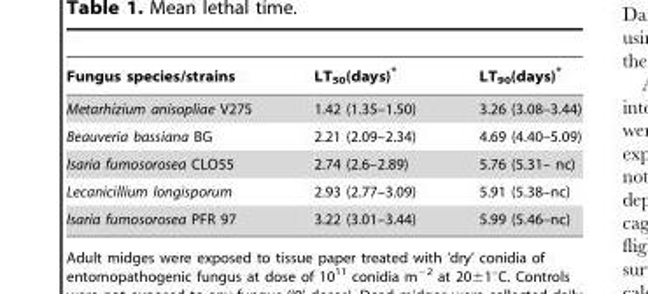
<table><thead><tr><td>Fungus species/strains</td><td>LT<sub>50</sub>(days)*</td><td>LT<sub>90</sub>(days)*</td></tr></thead><tbody><tr><td>Metarhizium anisopliae V275</td><td>1.42 (1.35–1.50)</td><td>3.26 (3.08–3.44)</td></tr><tr><td>Beauveria bassiana BG</td><td>2.21 (2.09–2.34)</td><td>4.69 (4.40–5.09)</td></tr><tr><td>Isaria fumosorosea CLO55</td><td>2.74 (2.6–2.89)</td><td>5.76 (5.31– nc)</td></tr><tr><td>Lecanicillium longisporum</td><td>2.93 (2.77–3.09)</td><td>5.91 (5.38–nc)</td></tr><tr><td>Isaria fumosorosea PFR 97</td><td>3.22 (3.01–3.44)</td><td>5.99 (5.46–nc)</td></tr></tbody></table>